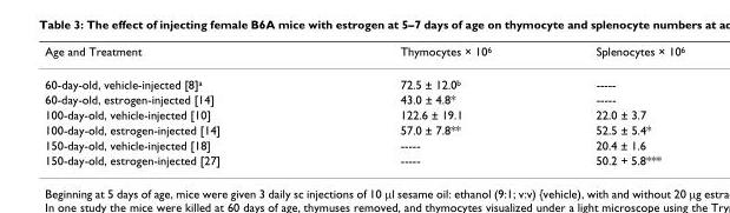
<table><thead><tr><td>Age and Treatment</td><td>Thymocytes × 10<sup>6</sup></td><td>Splenocytes × 10<sup>6</sup></td></tr></thead><tbody><tr><td>60-day-old, vehicle-injected [8]<sup>a</sup></td><td>72.5 ± 12.0<sup>b</sup></td><td>-----</td></tr><tr><td>60-day-old, estrogen-injected [14]</td><td>43.0 ± 4.8*</td><td>-----</td></tr><tr><td>100-day-old, vehicle-injected [10]</td><td>122.6 ± 19.1</td><td>22.0 ± 3.7</td></tr><tr><td>100-day-old, estrogen-injected [14]</td><td>57.0 ± 7.8**</td><td>52.5 ± 5.4*</td></tr><tr><td>150-day-old, vehicle-injected [18]</td><td>-----</td><td>20.4 ± 1.6</td></tr><tr><td>150-day-old, estrogen-injected [27]</td><td>-----</td><td>50.2 + 5.8***</td></tr></tbody></table>